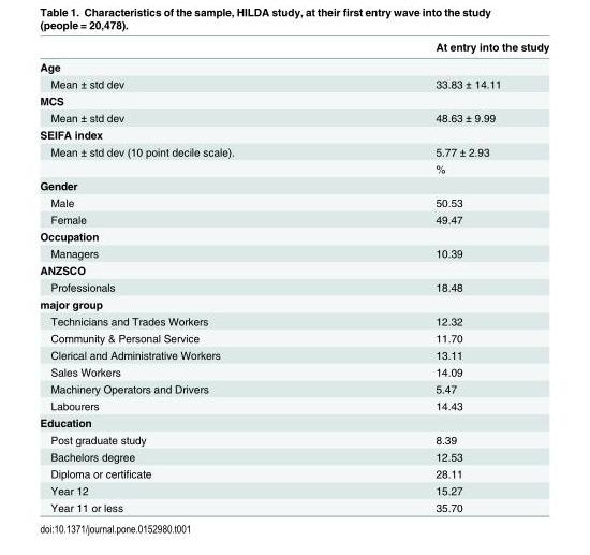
<table><thead><tr><td></td><td>At entry into the study</td></tr></thead><tbody><tr><td colspan="2">Age</td></tr><tr><td>Mean ± std dev</td><td>33.83 ± 14.11</td></tr><tr><td colspan="2">MCS</td></tr><tr><td>Mean ± std dev</td><td>48.63 ± 9.99</td></tr><tr><td colspan="2">SEIFA index</td></tr><tr><td rowspan="2">Mean ± std dev (10 point decile scale).</td><td>5.77 ± 2.93</td></tr><tr><td>%</td></tr><tr><td colspan="2">Gender</td></tr><tr><td>Male</td><td>50.53</td></tr><tr><td>Female</td><td>49.47</td></tr><tr><td colspan="2">Occupation</td></tr><tr><td>Managers</td><td>10.39</td></tr><tr><td colspan="2">ANZSCO</td></tr><tr><td>Professionals</td><td>18.48</td></tr><tr><td colspan="2">major group</td></tr><tr><td>Technicians and Trades Workers</td><td>12.32</td></tr><tr><td>Community &amp; Personal Service</td><td>11.70</td></tr><tr><td>Clerical and Administrative Workers</td><td>13.11</td></tr><tr><td>Sales Workers</td><td>14.09</td></tr><tr><td>Machinery Operators and Drivers</td><td>5.47</td></tr><tr><td>Labourers</td><td>14.43</td></tr><tr><td colspan="2">Education</td></tr><tr><td>Post graduate study</td><td>8.39</td></tr><tr><td>Bachelors degree</td><td>12.53</td></tr><tr><td>Diploma or certificate</td><td>28.11</td></tr><tr><td>Year 12</td><td>15.27</td></tr><tr><td>Year 11 or less</td><td>35.70</td></tr></tbody></table>